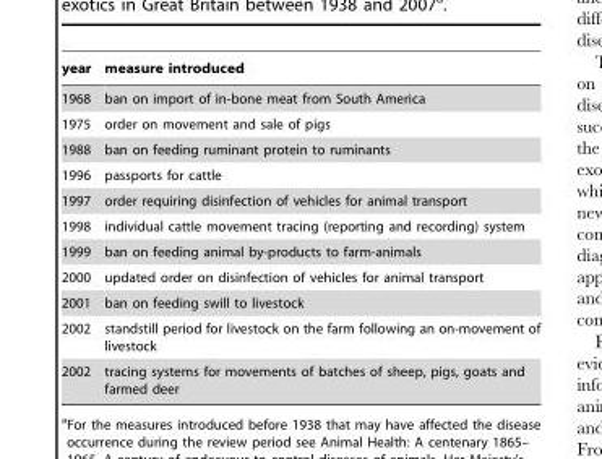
<table><thead><tr><td>year</td><td>measure introduced</td></tr></thead><tbody><tr><td>1968</td><td>ban on import of in-bone meat from South America</td></tr><tr><td>1975</td><td>order on movement and sale of pigs</td></tr><tr><td>1988</td><td>ban on feeding ruminant protein to ruminants</td></tr><tr><td>1996</td><td>passports for cattle</td></tr><tr><td>1997</td><td>order requiring disinfection of vehicles for animal transport</td></tr><tr><td>1998</td><td>individual cattle movement tracing (reporting and recording) system</td></tr><tr><td>1999</td><td>ban on feeding animal by-products to farm-animals</td></tr><tr><td>2000</td><td>updated order on disinfection of vehicles for animal transport</td></tr><tr><td>2001</td><td>ban on feeding swill to livestock</td></tr><tr><td>2002</td><td>standstill period for livestock on the farm following an on-movement of livestock</td></tr><tr><td>2002</td><td>tracing systems for movements of batches of sheep, pigs, goats and farmed deer</td></tr></tbody></table>